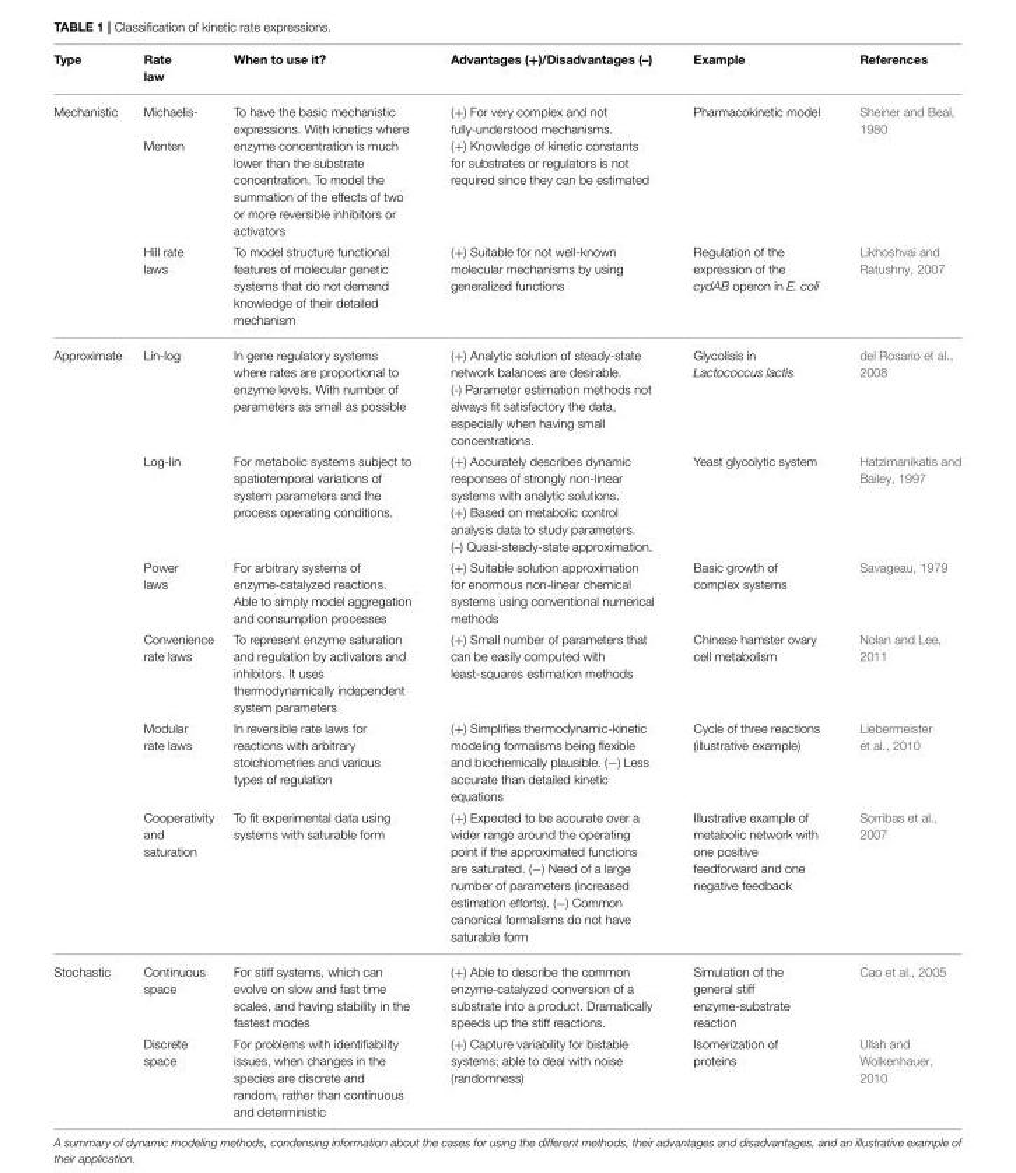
<table><thead><tr><td>Type</td><td>Rate law</td><td>When to use it?</td><td>Advantages (+)/Disadvantages (–)</td><td>Example</td><td>References</td></tr></thead><tbody><tr><td rowspan="2">Mechanistic</td><td>Michaelis- Menten</td><td>To have the basic mechanistic expressions. With kinetics where enzyme concentration is much lower than the substrate concentration. To model the summation of the effects of two or more reversible inhibitors or activators</td><td>(+) For very complex and not fully-understood mechanisms. (+) Knowledge of kinetic constants for substrates or regulators is not required since they can be estimated</td><td>Pharmacokinetic model</td><td>Sheiner and Beal, 1980</td></tr><tr><td>Hill rate laws</td><td>To model structure functional features of molecular genetic systems that do not demand knowledge of their detailed mechanism</td><td>(+) Suitable for not well-known molecular mechanisms by using generalized functions</td><td>Regulation of the expression of the cydAB operon in E. coli</td><td>Likhoshvai and Ratushny, 2007</td></tr><tr><td rowspan="6">Approximate</td><td>Lin-log</td><td>In gene regulatory systems where rates are proportional to enzyme levels. With number of parameters as small as possible</td><td>(+) Analytic solution of steady-state network balances are desirable. (-) Parameter estimation methods not always fit satisfactory the data, especially when having small concentrations.</td><td>Glycolisis in Lactococcus lactis</td><td>del Rosario et al., 2008</td></tr><tr><td>Log-lin</td><td>For metabolic systems subject to spatiotemporal variations of system parameters and the process operating conditions.</td><td>(+) Accurately describes dynamic responses of strongly non-linear systems with analytic solutions. (+) Based on metabolic control analysis data to study parameters. (–) Quasi-steady-state approximation.</td><td>Yeast glycolytic system</td><td>Hatzimanikatis and Bailey, 1997</td></tr><tr><td>Power laws</td><td>For arbitrary systems of enzyme-catalyzed reactions. Able to simply model aggregation and consumption processes</td><td>(+) Suitable solution approximation for enormous non-linear chemical systems using conventional numerical methods</td><td>Basic growth of complex systems</td><td>Savageau, 1979</td></tr><tr><td>Convenience rate laws</td><td>To represent enzyme saturation and regulation by activators and inhibitors. It uses thermodynamically independent system parameters</td><td>(+) Small number of parameters that can be easily computed with least-squares estimation methods</td><td>Chinese hamster ovary cell metabolism</td><td>Nolan and Lee, 2011</td></tr><tr><td>Modular rate laws</td><td>In reversible rate laws for reactions with arbitrary stoichiometries and various types of regulation</td><td>(+) Simplifies thermodynamic-kinetic modeling formalisms being flexible and biochemically plausible. (−) Less accurate than detailed kinetic equations</td><td>Cycle of three reactions (illustrative example)</td><td>Liebermeister et al., 2010</td></tr><tr><td>Cooperativity and saturation</td><td>To fit experimental data using systems with saturable form</td><td>(+) Expected to be accurate over a wider range around the operating point if the approximated functions are saturated. (−) Need of a large number of parameters (increased estimation efforts). (−) Common canonical formalisms do not have saturable form</td><td>Illustrative example of metabolic network with one positive feedforward and one negative feedback</td><td>Sorribas et al., 2007</td></tr><tr><td rowspan="2">Stochastic</td><td>Continuous space</td><td>For stiff systems, which can evolve on slow and fast time scales, and having stability in the fastest modes</td><td>(+) Able to describe the common enzyme-catalyzed conversion of a substrate into a product. Dramatically speeds up the stiff reactions.</td><td>Simulation of the general stiff enzyme-substrate reaction</td><td>Cao et al., 2005</td></tr><tr><td>Discrete space</td><td>For problems with identifiability issues, when changes in the species are discrete and random, rather than continuous and deterministic</td><td>(+) Capture variability for bistable systems; able to deal with noise (randomness)</td><td>Isomerization of proteins</td><td>Ullah and Wolkenhauer, 2010</td></tr></tbody></table>